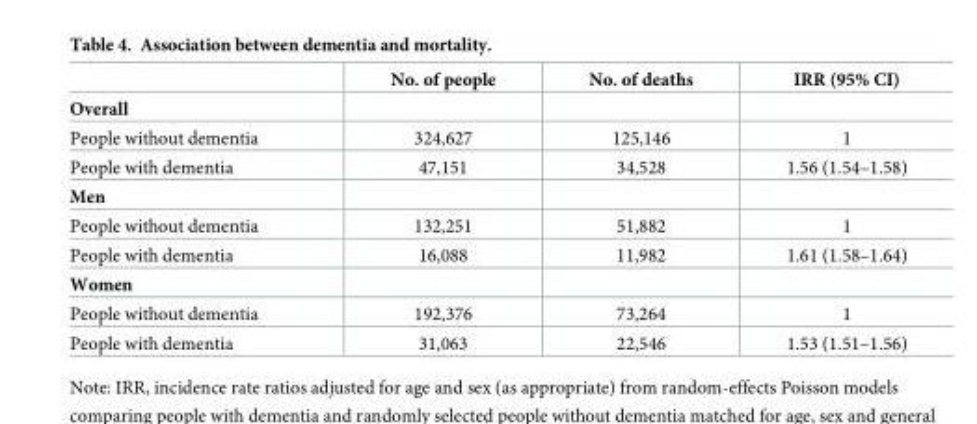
<table><thead><tr><td></td><td>No. of people</td><td>No. of deaths</td><td>IRR (95% CI)</td></tr></thead><tbody><tr><td colspan="4">Overall</td></tr><tr><td>People without dementia</td><td>324,627</td><td>125,146</td><td>1</td></tr><tr><td>People with dementia</td><td>47,151</td><td>34,528</td><td>1.56 (1.54–1.58)</td></tr><tr><td colspan="4">Men</td></tr><tr><td>People without dementia</td><td>132,251</td><td>51,882</td><td>1</td></tr><tr><td>People with dementia</td><td>16,088</td><td>11,982</td><td>1.61 (1.58–1.64)</td></tr><tr><td colspan="4">Women</td></tr><tr><td>People without dementia</td><td>192,376</td><td>73,264</td><td>1</td></tr><tr><td>People with dementia</td><td>31,063</td><td>22,546</td><td>1.53 (1.51–1.56)</td></tr></tbody></table>